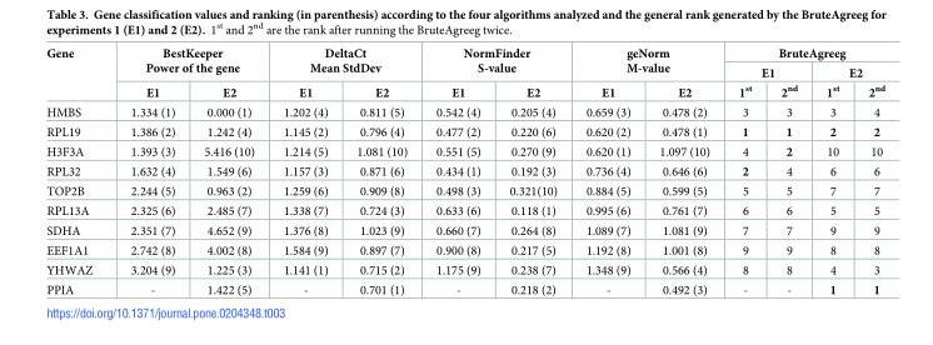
<table><thead><tr><td rowspan="3">Gene</td><td rowspan="2" colspan="2">BestKeeper Power of the gene</td><td rowspan="2" colspan="2">DeltaCt Mean StdDev</td><td rowspan="2" colspan="2">NormFinder S-value</td><td rowspan="2" colspan="2">geNorm M-value</td><td colspan="4">BruteAgreeg</td></tr><tr><td colspan="2">E1</td><td colspan="2">E2</td></tr><tr><td>E1</td><td>E2</td><td>E1</td><td>E2</td><td>E1</td><td>E2</td><td>E1</td><td>E2</td><td>1<sup>st</sup></td><td>2<sup>nd</sup></td><td>1<sup>st</sup></td><td>2<sup>nd</sup></td></tr></thead><tbody><tr><td>HMBS</td><td>1.334 (1)</td><td>0.000 (1)</td><td>1.202 (4)</td><td>0.811 (5)</td><td>0.542 (4)</td><td>0.205 (4)</td><td>0.659 (3)</td><td>0.478 (2)</td><td>3</td><td>3</td><td>3</td><td>4</td></tr><tr><td>RPL19</td><td>1.386 (2)</td><td>1.242 (4)</td><td>1.145 (2)</td><td>0.796 (4)</td><td>0.477 (2)</td><td>0.220 (6)</td><td>0.620 (2)</td><td>0.478 (1)</td><td>1</td><td>1</td><td>2</td><td>2</td></tr><tr><td>H3F3A</td><td>1.393 (3)</td><td>5.416 (10)</td><td>1.214 (5)</td><td>1.081 (10)</td><td>0.551 (5)</td><td>0.270 (9)</td><td>0.620 (1)</td><td>1.097 (10)</td><td>4</td><td>2</td><td>10</td><td>10</td></tr><tr><td>RPL32</td><td>1.632 (4)</td><td>1.549 (6)</td><td>1.157 (3)</td><td>0.871 (6)</td><td>0.434 (1)</td><td>0.192 (3)</td><td>0.736 (4)</td><td>0.646 (6)</td><td>2</td><td>4</td><td>6</td><td>6</td></tr><tr><td>TOP2B</td><td>2.244 (5)</td><td>0.963 (2)</td><td>1.259 (6)</td><td>0.909 (8)</td><td>0.498 (3)</td><td>0.321(10)</td><td>0.884 (5)</td><td>0.599 (5)</td><td>5</td><td>5</td><td>7</td><td>7</td></tr><tr><td>RPL13A</td><td>2.325 (6)</td><td>2.485 (7)</td><td>1.338 (7)</td><td>0.724 (3)</td><td>0.633 (6)</td><td>0.118 (1)</td><td>0.995 (6)</td><td>0.761 (7)</td><td>6</td><td>6</td><td>5</td><td>5</td></tr><tr><td>SDHA</td><td>2.351 (7)</td><td>4.652 (9)</td><td>1.376 (8)</td><td>1.023 (9)</td><td>0.660 (7)</td><td>0.264 (8)</td><td>1.089 (7)</td><td>1.081 (9)</td><td>7</td><td>7</td><td>9</td><td>9</td></tr><tr><td>EEF1A1</td><td>2.742 (8)</td><td>4.002 (8)</td><td>1.584 (9)</td><td>0.897 (7)</td><td>0.900 (8)</td><td>0.217 (5)</td><td>1.192 (8)</td><td>1.001 (8)</td><td>9</td><td>9</td><td>8</td><td>8</td></tr><tr><td>YHWAZ</td><td>3.204 (9)</td><td>1.225 (3)</td><td>1.141 (1)</td><td>0.715 (2)</td><td>1.175 (9)</td><td>0.238 (7)</td><td>1.348 (9)</td><td>0.566 (4)</td><td>8</td><td>8</td><td>4</td><td>3</td></tr><tr><td>PPIA</td><td>-</td><td>1.422 (5)</td><td>-</td><td>0.701 (1)</td><td>-</td><td>0.218 (2)</td><td>-</td><td>0.492 (3)</td><td>-</td><td>-</td><td>1</td><td>1</td></tr></tbody></table>